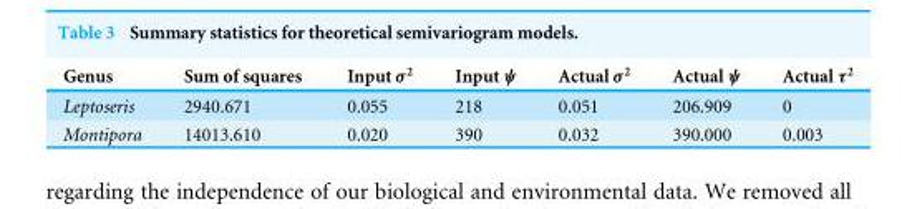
<table><thead><tr><td>Genus</td><td>Sum of squares</td><td>Input σ<sup>2</sup></td><td>Input ψ</td><td>Actual σ<sup>2</sup></td><td>Actual ψ</td><td>Actual τ<sup>2</sup></td></tr></thead><tbody><tr><td>Leptoseris</td><td>2940.671</td><td>0.055</td><td>218</td><td>0.051</td><td>206.909</td><td>0</td></tr><tr><td>Montipora</td><td>14013.610</td><td>0.020</td><td>390</td><td>0.032</td><td>390.000</td><td>0.003</td></tr></tbody></table>